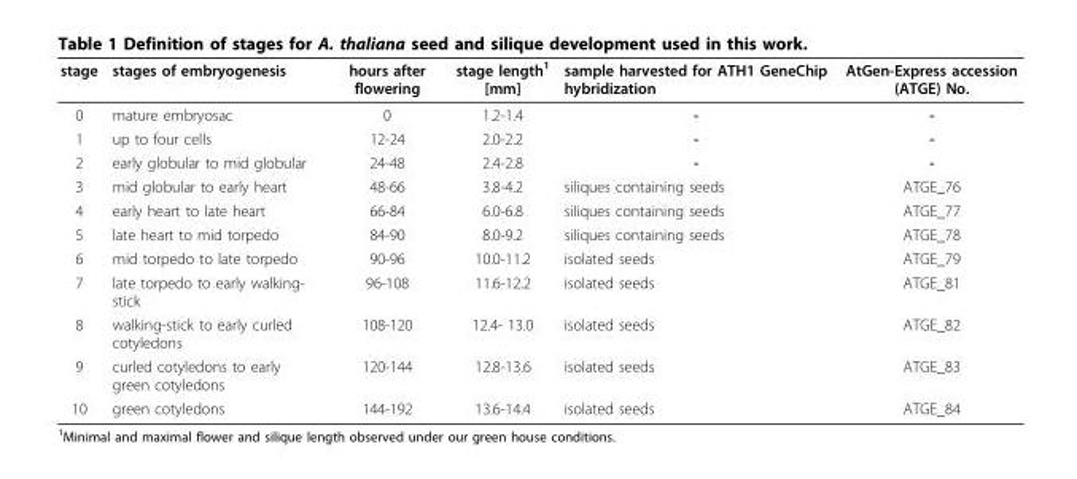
<table><thead><tr><td>stage</td><td>stages of embryogenesis</td><td>hours after flowering</td><td>stage length<sup>1</sup> [mm]</td><td>sample harvested for ATH1 GeneChip hybridization</td><td>AtGen-Express accession (ATGE) No.</td></tr></thead><tbody><tr><td>0</td><td>mature embryosac</td><td>0</td><td>1.2-1.4</td><td>-</td><td>-</td></tr><tr><td>1</td><td>up to four cells</td><td>12-24</td><td>2.0-2.2</td><td>-</td><td>-</td></tr><tr><td>2</td><td>early globular to mid globular</td><td>24-48</td><td>2.4-2.8</td><td>-</td><td>-</td></tr><tr><td>3</td><td>mid globular to early heart</td><td>48-66</td><td>3.8-4.2</td><td>siliques containing seeds</td><td>ATGE_76</td></tr><tr><td>4</td><td>early heart to late heart</td><td>66-84</td><td>6.0-6.8</td><td>siliques containing seeds</td><td>ATGE_77</td></tr><tr><td>5</td><td>late heart to mid torpedo</td><td>84-90</td><td>8.0-9.2</td><td>siliques containing seeds</td><td>ATGE_78</td></tr><tr><td>6</td><td>mid torpedo to late torpedo</td><td>90-96</td><td>10.0-11.2</td><td>isolated seeds</td><td>ATGE_79</td></tr><tr><td>7</td><td>late torpedo to early walking- stick</td><td>96-108</td><td>11.6-12.2</td><td>isolated seeds</td><td>ATGE_81</td></tr><tr><td>8</td><td>walking-stick to early curled cotyledons</td><td>108-120</td><td>12.4- 13.0</td><td>isolated seeds</td><td>ATGE_82</td></tr><tr><td>9</td><td>curled cotyledons to early green cotyledons</td><td>120-144</td><td>12.8-13.6</td><td>isolated seeds</td><td>ATGE_83</td></tr><tr><td>10</td><td>green cotyledons</td><td>144-192</td><td>13.6-14.4</td><td>isolated seeds</td><td>ATGE_84</td></tr></tbody></table>